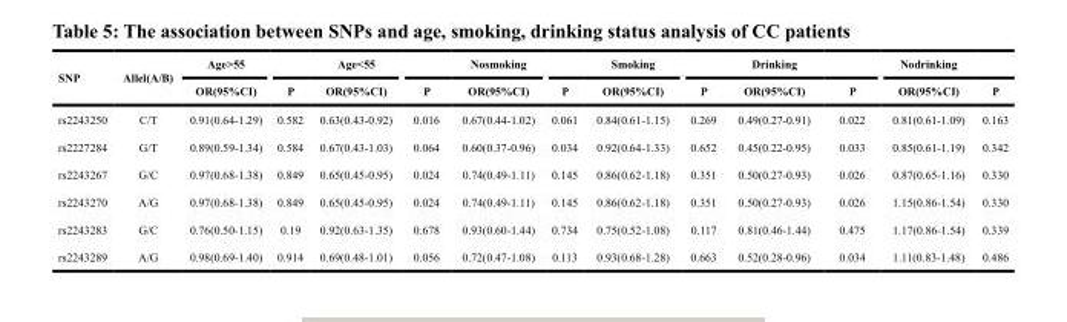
<table><thead><tr><td rowspan="2">SNP</td><td rowspan="2">Allel(A/B)</td><td rowspan="2">Age&gt;55 OR(95%CI)</td><td rowspan="2">P</td><td rowspan="2">Age&lt;55 OR(95%CI)</td><td rowspan="2">P</td><td rowspan="2">Nosmoking OR(95%CI)</td><td rowspan="2">P</td><td rowspan="2">Smoking OR(95%CI)</td><td rowspan="2">P</td><td rowspan="2">Drinking OR(95%CI)</td><td rowspan="2">P</td><td rowspan="2">Nodrinking OR(95%CI)</td><td rowspan="2">P</td></tr><tr></tr></thead><tbody><tr><td>rs2243250</td><td>C/T</td><td>0.91(0.64-1.29)</td><td>0.582</td><td>0.63(0.43-0.92)</td><td>0.016</td><td>0.67(0.44-1.02)</td><td>0.061</td><td>0.84(0.61-1.15)</td><td>0.269</td><td>0.49(0.27-0.91)</td><td>0.022</td><td>0.81(0.61-1.09)</td><td>0.163</td></tr><tr><td>rs2227284</td><td>G/T</td><td>0.89(0.59-1.34)</td><td>0.584</td><td>0.67(0.43-1.03)</td><td>0.064</td><td>0.60(0.37-0.96)</td><td>0.034</td><td>0.92(0.64-1.33)</td><td>0.652</td><td>0.45(0.22-0.95)</td><td>0.033</td><td>0.85(0.61-1.19)</td><td>0.342</td></tr><tr><td>rs2243267</td><td>G/C</td><td>0.97(0.68-1.38)</td><td>0.849</td><td>0.65(0.45-0.95)</td><td>0.024</td><td>0.74(0.49-1.11)</td><td>0.145</td><td>0.86(0.62-1.18)</td><td>0.351</td><td>0.50(0.27-0.93)</td><td>0.026</td><td>0.87(0.65-1.16)</td><td>0.330</td></tr><tr><td>rs2243270</td><td>A/G</td><td>0.97(0.68-1.38)</td><td>0.849</td><td>0.65(0.45-0.95)</td><td>0.024</td><td>0.74(0.49-1.11)</td><td>0.145</td><td>0.86(0.62-1.18)</td><td>0.351</td><td>0.50(0.27-0.93)</td><td>0.026</td><td>1.15(0.86-1.54)</td><td>0.330</td></tr><tr><td>rs2243283</td><td>G/C</td><td>0.76(0.50-1.15)</td><td>0.19</td><td>0.92(0.63-1.35)</td><td>0.678</td><td>0.93(0.60-1.44)</td><td>0.734</td><td>0.75(0.52-1.08)</td><td>0.117</td><td>0.81(0.46-1.44)</td><td>0.475</td><td>1.17(0.86-1.54)</td><td>0.339</td></tr><tr><td>rs2243289</td><td>A/G</td><td>0.98(0.69-1.40)</td><td>0.914</td><td>0.69(0.48-1.01)</td><td>0.056</td><td>0.72(0.47-1.08)</td><td>0.113</td><td>0.93(0.68-1.28)</td><td>0.663</td><td>0.52(0.28-0.96)</td><td>0.034</td><td>1.11(0.83-1.48)</td><td>0.486</td></tr></tbody></table>